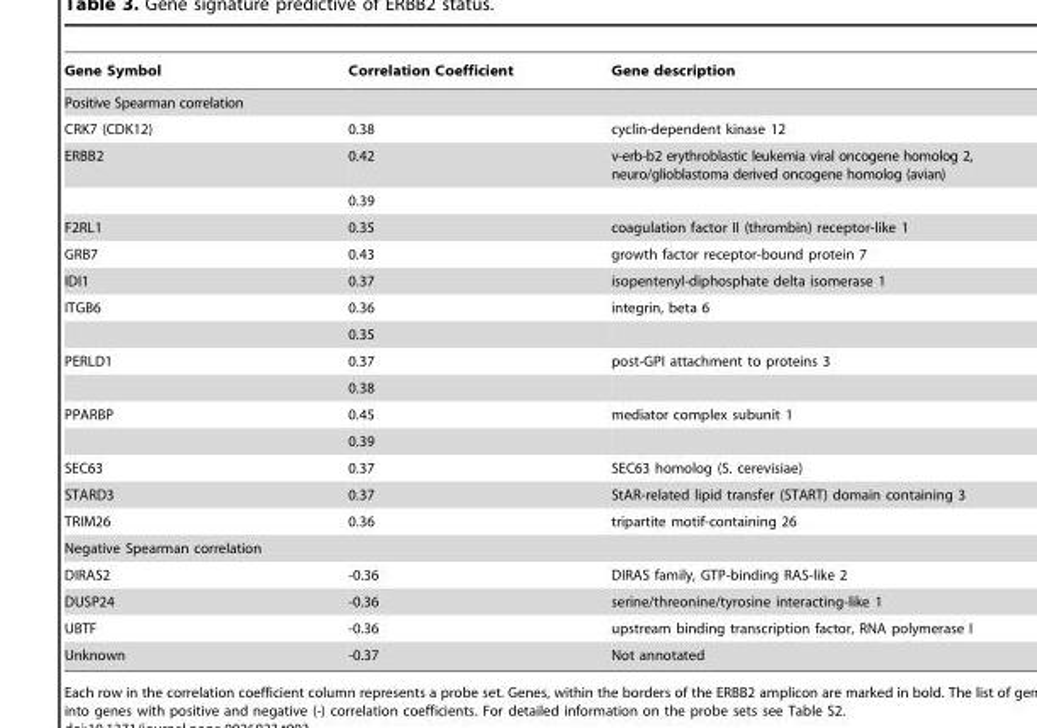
<table><thead><tr><td>Gene Symbol</td><td>Correlation Coefficient</td><td>Gene description</td></tr></thead><tbody><tr><td colspan="3">Positive Spearman correlation</td></tr><tr><td>CRK7 (CDK12)</td><td>0.38</td><td>cyclin-dependent kinase 12</td></tr><tr><td rowspan="2">ERBB2</td><td>0.42</td><td>v-erb-b2 erythroblastic leukemia viral oncogene homolog 2, neuro/glioblastoma derived oncogene homolog (avian)</td></tr><tr><td>0.39</td><td></td></tr><tr><td>F2RL1</td><td>0.35</td><td>coagulation factor II (thrombin) receptor-like 1</td></tr><tr><td>GRB7</td><td>0.43</td><td>growth factor receptor-bound protein 7</td></tr><tr><td>IDI1</td><td>0.37</td><td>isopentenyl-diphosphate delta isomerase 1</td></tr><tr><td rowspan="2">ITGB6</td><td>0.36</td><td>integrin, beta 6</td></tr><tr><td>0.35</td><td></td></tr><tr><td rowspan="2">PERLD1</td><td>0.37</td><td>post-GPI attachment to proteins 3</td></tr><tr><td>0.38</td><td></td></tr><tr><td rowspan="2">PPARBP</td><td>0.45</td><td>mediator complex subunit 1</td></tr><tr><td>0.39</td><td></td></tr><tr><td>SEC63</td><td>0.37</td><td>SEC63 homolog (S. cerevisiae)</td></tr><tr><td>STARD3</td><td>0.37</td><td>StAR-related lipid transfer (START) domain containing 3</td></tr><tr><td>TRIM26</td><td>0.36</td><td>tripartite motif-containing 26</td></tr><tr><td colspan="3">Negative Spearman correlation</td></tr><tr><td>DIRAS2</td><td>-0.36</td><td>DIRAS family, GTP-binding RAS-like 2</td></tr><tr><td>DUSP24</td><td>-0.36</td><td>serine/threonine/tyrosine interacting-like 1</td></tr><tr><td>UBTF</td><td>-0.36</td><td>upstream binding transcription factor, RNA polymerase I</td></tr><tr><td>Unknown</td><td>-0.37</td><td>Not annotated</td></tr></tbody></table>